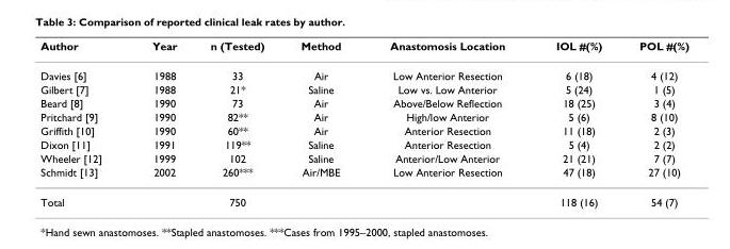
<table><thead><tr><td>Author</td><td>Year</td><td>n (Tested)</td><td>Method</td><td>Anastomosis Location</td><td>IOL #(%)</td><td>POL #(%)</td></tr></thead><tbody><tr><td>Davies [6]</td><td>1988</td><td>33</td><td>Air</td><td>Low Anterior Resection</td><td>6 (18)</td><td>4 (12)</td></tr><tr><td>Gilbert [7]</td><td>1988</td><td>21*</td><td>Saline</td><td>Low vs. Low Anterior</td><td>5 (24)</td><td>1 (5)</td></tr><tr><td>Beard [8]</td><td>1990</td><td>73</td><td>Air</td><td>Above/Below Reflection</td><td>18 (25)</td><td>3 (4)</td></tr><tr><td>Pritchard [9]</td><td>1990</td><td>82**</td><td>Air</td><td>High/low Anterior</td><td>5 (6)</td><td>8 (10)</td></tr><tr><td>Griffith [10]</td><td>1990</td><td>60**</td><td>Air</td><td>Anterior Resection</td><td>11 (18)</td><td>2 (3)</td></tr><tr><td>Dixon [11]</td><td>1991</td><td>119**</td><td>Saline</td><td>Anterior Resection</td><td>5 (4)</td><td>2 (2)</td></tr><tr><td>Wheeler [12]</td><td>1999</td><td>102</td><td>Saline</td><td>Anterior/Low Anterior</td><td>21 (21)</td><td>7 (7)</td></tr><tr><td>Schmidt [13]</td><td>2002</td><td>260***</td><td>Air/MBE</td><td>Low Anterior Resection</td><td>47 (18)</td><td>27 (10)</td></tr><tr><td>Total</td><td></td><td>750</td><td></td><td></td><td>118 (16)</td><td>54 (7)</td></tr></tbody></table>